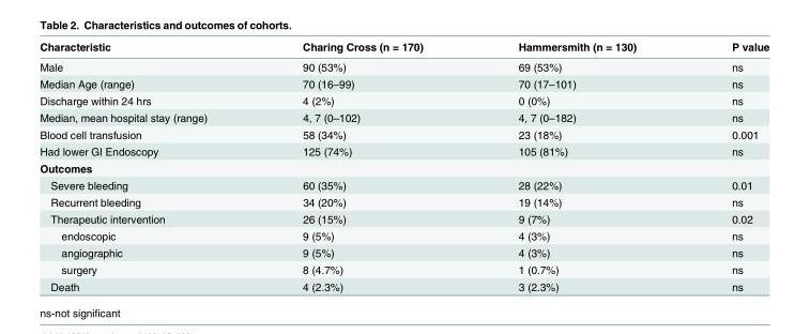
<table><thead><tr><td>Characteristic</td><td>Charing Cross (n = 170)</td><td>Hammersmith (n = 130)</td><td>P value</td></tr></thead><tbody><tr><td>Male</td><td>90 (53%)</td><td>69 (53%)</td><td>ns</td></tr><tr><td>Median Age (range)</td><td>70 (16–99)</td><td>70 (17–101)</td><td>ns</td></tr><tr><td>Discharge within 24 hrs</td><td>4 (2%)</td><td>0 (0%)</td><td>ns</td></tr><tr><td>Median, mean hospital stay (range)</td><td>4, 7 (0–102)</td><td>4, 7 (0–182)</td><td>ns</td></tr><tr><td>Blood cell transfusion</td><td>58 (34%)</td><td>23 (18%)</td><td>0.001</td></tr><tr><td>Had lower GI Endoscopy</td><td>125 (74%)</td><td>105 (81%)</td><td>ns</td></tr><tr><td colspan="4">Outcomes</td></tr><tr><td>Severe bleeding</td><td>60 (35%)</td><td>28 (22%)</td><td>0.01</td></tr><tr><td>Recurrent bleeding</td><td>34 (20%)</td><td>19 (14%)</td><td>ns</td></tr><tr><td>Therapeutic intervention</td><td>26 (15%)</td><td>9 (7%)</td><td>0.02</td></tr><tr><td>endoscopic</td><td>9 (5%)</td><td>4 (3%)</td><td>ns</td></tr><tr><td>angiographic</td><td>9 (5%)</td><td>4 (3%)</td><td>ns</td></tr><tr><td>surgery</td><td>8 (4.7%)</td><td>1 (0.7%)</td><td>ns</td></tr><tr><td>Death</td><td>4 (2.3%)</td><td>3 (2.3%)</td><td>ns</td></tr></tbody></table>